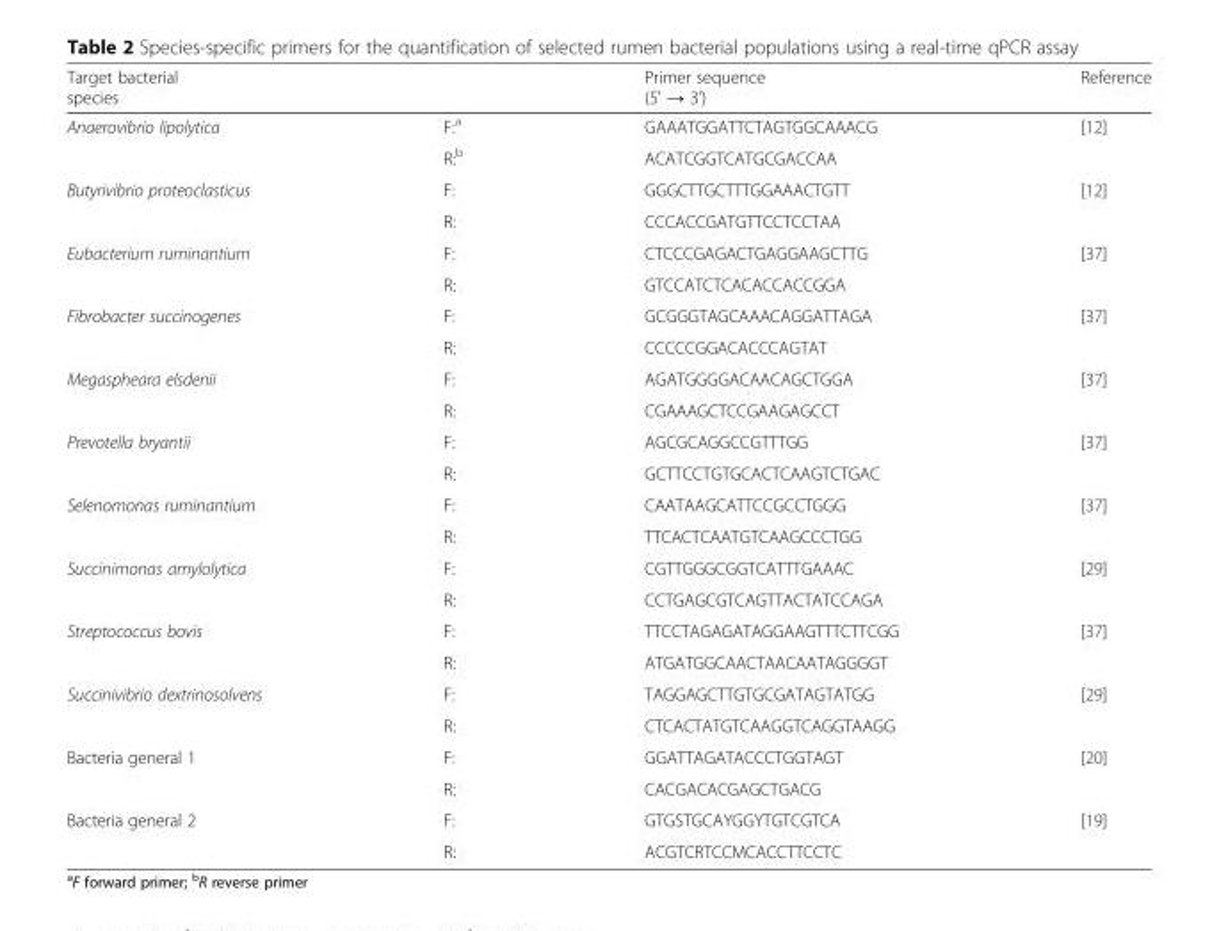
<table><thead><tr><td>Target bacterial species</td><td></td><td>Primer sequence (5&#x27; → 3&#x27;)</td><td>Reference</td></tr></thead><tbody><tr><td rowspan="2">Anaerovibrio lipolytica</td><td>F:<sup>a</sup></td><td>GAAATGGATTCTAGTGGCAAACG</td><td rowspan="2">[12]</td></tr><tr><td>R:<sup>b</sup></td><td>ACATCGGTCATGCGACCAA</td></tr><tr><td rowspan="2">Butyrivibrio proteoclasticus</td><td>F:</td><td>GGGCTTGCTTTGGAAACTGTT</td><td rowspan="2">[12]</td></tr><tr><td>R:</td><td>CCCACCGATGTTCCTCCTAA</td></tr><tr><td rowspan="2">Eubacterium ruminantium</td><td>F:</td><td>CTCCCGAGACTGAGGAAGCTTG</td><td rowspan="2">[37]</td></tr><tr><td>R:</td><td>GTCCATCTCACACCACCGGA</td></tr><tr><td rowspan="2">Fibrobacter succinogenes</td><td>F:</td><td>GCGGGTAGCAAACAGGATTAGA</td><td rowspan="2">[37]</td></tr><tr><td>R:</td><td>CCCCCGGACACCCAGTAT</td></tr><tr><td rowspan="2">Megaspheara elsdenii</td><td>F:</td><td>AGATGGGGACAACAGCTGGA</td><td rowspan="2">[37]</td></tr><tr><td>R:</td><td>CGAAAGCTCCGAAGAGCCT</td></tr><tr><td rowspan="2">Prevotella bryantii</td><td>F:</td><td>AGCGCAGGCCGTTTGG</td><td rowspan="2">[37]</td></tr><tr><td>R:</td><td>GCTTCCTGTGCACTCAAGTCTGAC</td></tr><tr><td rowspan="2">Selenomonas ruminantium</td><td>F:</td><td>CAATAAGCATTCCGCCTGGG</td><td rowspan="2">[37]</td></tr><tr><td>R:</td><td>TTCACTCAATGTCAAGCCCTGG</td></tr><tr><td rowspan="2">Succinimonas amylolytica</td><td>F:</td><td>CGTTGGGCGGTCATTTGAAAC</td><td rowspan="2">[29]</td></tr><tr><td>R:</td><td>CCTGAGCGTCAGTTACTATCCAGA</td></tr><tr><td rowspan="2">Streptococcus bovis</td><td>F:</td><td>TTCCTAGAGATAGGAAGTTTCTTCGG</td><td rowspan="2">[37]</td></tr><tr><td>R:</td><td>ATGATGGCAACTAACAATAGGGGT</td></tr><tr><td rowspan="2">Succinivibrio dextrinosolvens</td><td>F:</td><td>TAGGAGCTTGTGCGATAGTATGG</td><td rowspan="2">[29]</td></tr><tr><td>R:</td><td>CTCACTATGTCAAGGTCAGGTAAGG</td></tr><tr><td rowspan="2">Bacteria general 1</td><td>F:</td><td>GGATTAGATACCCTGGTAGT</td><td rowspan="2">[20]</td></tr><tr><td>R:</td><td>CACGACACGAGCTGACG</td></tr><tr><td rowspan="2">Bacteria general 2</td><td>F:</td><td>GTGSTGCAYGGYTGTCGTCA</td><td rowspan="2">[19]</td></tr><tr><td>R:</td><td>ACGTCRTCCMCACCTTCCTC</td></tr></tbody></table>